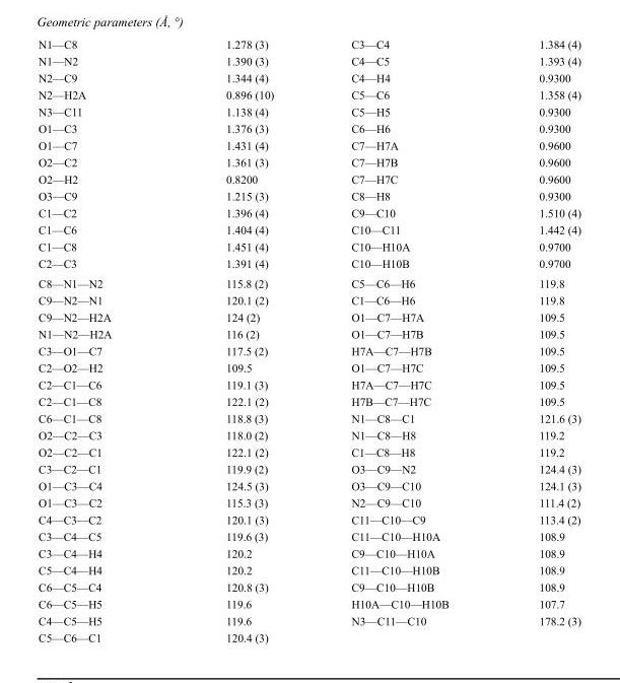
<table><tbody><tr><td>N1—C8</td><td>1.278 (3)</td><td>C3—C4</td><td>1.384 (4)</td></tr><tr><td>N1—N2</td><td>1.390 (3)</td><td>C4—C5</td><td>1.393 (4)</td></tr><tr><td>N2—C9</td><td>1.344 (4)</td><td>C4—H4</td><td>0.9300</td></tr><tr><td>N2—H2A</td><td>0.896 (10)</td><td>C5—C6</td><td>1.358 (4)</td></tr><tr><td>N3—C11</td><td>1.138 (4)</td><td>C5—H5</td><td>0.9300</td></tr><tr><td>O1—C3</td><td>1.376 (3)</td><td>C6—H6</td><td>0.9300</td></tr><tr><td>O1—C7</td><td>1.431 (4)</td><td>C7—H7A</td><td>0.9600</td></tr><tr><td>O2—C2</td><td>1.361 (3)</td><td>C7—H7B</td><td>0.9600</td></tr><tr><td>O2—H2</td><td>0.8200</td><td>C7—H7C</td><td>0.9600</td></tr><tr><td>O3—C9</td><td>1.215 (3)</td><td>C8—H8</td><td>0.9300</td></tr><tr><td>C1—C2</td><td>1.396 (4)</td><td>C9—C10</td><td>1.510 (4)</td></tr><tr><td>C1—C6</td><td>1.404 (4)</td><td>C10—C11</td><td>1.442 (4)</td></tr><tr><td>C1—C8</td><td>1.451 (4)</td><td>C10—H10A</td><td>0.9700</td></tr><tr><td>C2—C3</td><td>1.391 (4)</td><td>C10—H10B</td><td>0.9700</td></tr><tr><td>C8—N1—N2</td><td>115.8 (2)</td><td>C5—C6—H6</td><td>119.8</td></tr><tr><td>C9—N2—N1</td><td>120.1 (2)</td><td>C1—C6—H6</td><td>119.8</td></tr><tr><td>C9—N2—H2A</td><td>124 (2)</td><td>O1—C7—H7A</td><td>109.5</td></tr><tr><td>N1—N2—H2A</td><td>116 (2)</td><td>O1—C7—H7B</td><td>109.5</td></tr><tr><td>C3—O1—C7</td><td>117.5 (2)</td><td>H7A—C7—H7B</td><td>109.5</td></tr><tr><td>C2—O2—H2</td><td>109.5</td><td>O1—C7—H7C</td><td>109.5</td></tr><tr><td>C2—C1—C6</td><td>119.1 (3)</td><td>H7A—C7—H7C</td><td>109.5</td></tr><tr><td>C2—C1—C8</td><td>122.1 (2)</td><td>H7B—C7—H7C</td><td>109.5</td></tr><tr><td>C6—C1—C8</td><td>118.8 (3)</td><td>N1—C8—C1</td><td>121.6 (3)</td></tr><tr><td>O2—C2—C3</td><td>118.0 (2)</td><td>N1—C8—H8</td><td>119.2</td></tr><tr><td>O2—C2—C1</td><td>122.1 (2)</td><td>C1—C8—H8</td><td>119.2</td></tr><tr><td>C3—C2—C1</td><td>119.9 (2)</td><td>O3—C9—N2</td><td>124.4 (3)</td></tr><tr><td>O1—C3—C4</td><td>124.5 (3)</td><td>O3—C9—C10</td><td>124.1 (3)</td></tr><tr><td>O1—C3—C2</td><td>115.3 (3)</td><td>N2—C9—C10</td><td>111.4 (2)</td></tr><tr><td>C4—C3—C2</td><td>120.1 (3)</td><td>C11—C10—C9</td><td>113.4 (2)</td></tr><tr><td>C3—C4—C5</td><td>119.6 (3)</td><td>C11—C10—H10A</td><td>108.9</td></tr><tr><td>C3—C4—H4</td><td>120.2</td><td>C9—C10—H10A</td><td>108.9</td></tr><tr><td>C5—C4—H4</td><td>120.2</td><td>C11—C10—H10B</td><td>108.9</td></tr><tr><td>C6—C5—C4</td><td>120.8 (3)</td><td>C9—C10—H10B</td><td>108.9</td></tr><tr><td>C6—C5—H5</td><td>119.6</td><td>H10A—C10—H10B</td><td>107.7</td></tr><tr><td>C4—C5—H5</td><td>119.6</td><td>N3—C11—C10</td><td>178.2 (3)</td></tr><tr><td>C5—C6—C1</td><td>120.4 (3)</td><td></td><td></td></tr></tbody></table>